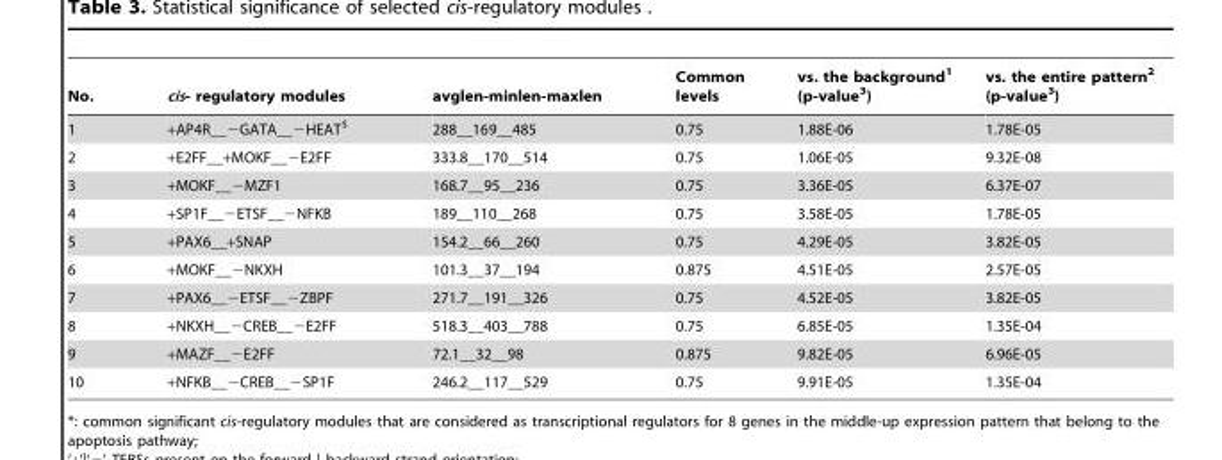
<table><thead><tr><td>No.</td><td>cis- regulatory modules</td><td>avglen-minlen-maxlen</td><td>Common levels</td><td>vs. the background<sup>1</sup> (p-value<sup>3</sup>)</td><td>vs. the entire pattern<sup>2</sup> (p-value<sup>3</sup>)</td></tr></thead><tbody><tr><td>1</td><td>+AP4R__−GATA__−HEAT$</td><td>288__169__485</td><td>0.75</td><td>1.88E-06</td><td>1.78E-05</td></tr><tr><td>2</td><td>+E2FF__+MOKF__−E2FF</td><td>333.8__170__514</td><td>0.75</td><td>1.06E-05</td><td>9.32E-08</td></tr><tr><td>3</td><td>+MOKF__−MZF1</td><td>168.7__95__236</td><td>0.75</td><td>3.36E-05</td><td>6.37E-07</td></tr><tr><td>4</td><td>+SP1F__−ETSF__−NFKB</td><td>189__110__268</td><td>0.75</td><td>3.58E-05</td><td>1.78E-05</td></tr><tr><td>5</td><td>+PAX6__+SNAP</td><td>154.2__66__260</td><td>0.75</td><td>4.29E-05</td><td>3.82E-05</td></tr><tr><td>6</td><td>+MOKF__−NKXH</td><td>101.3__37__194</td><td>0.875</td><td>4.51E-05</td><td>2.57E-05</td></tr><tr><td>7</td><td>+PAX6__−ETSF__−ZBPF</td><td>271.7__191__326</td><td>0.75</td><td>4.52E-05</td><td>3.82E-05</td></tr><tr><td>8</td><td>+NKXH__−CREB__−E2FF</td><td>518.3__403__788</td><td>0.75</td><td>6.85E-05</td><td>1.35E-04</td></tr><tr><td>9</td><td>+MAZF__−E2FF</td><td>72.1__32__98</td><td>0.875</td><td>9.82E-05</td><td>6.96E-05</td></tr><tr><td>10</td><td>+NFKB__−CREB__−SP1F</td><td>246.2__117__529</td><td>0.75</td><td>9.91E-05</td><td>1.35E-04</td></tr></tbody></table>